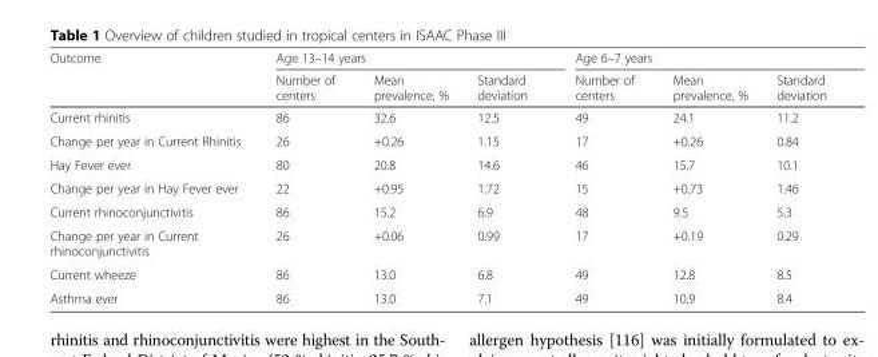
<table><thead><tr><td rowspan="2">Outcome</td><td colspan="3">Age 13–14 years</td><td colspan="3">Age 6–7 years</td></tr><tr><td>Number of centers</td><td>Mean prevalence, %</td><td>Standard deviation</td><td>Number of centers</td><td>Mean prevalence, %</td><td>Standard deviation</td></tr></thead><tbody><tr><td>Current rhinitis</td><td>86</td><td>32.6</td><td>12.5</td><td>49</td><td>24.1</td><td>11.2</td></tr><tr><td>Change per year in Current Rhinitis</td><td>26</td><td>+0.26</td><td>1.15</td><td>17</td><td>+0.26</td><td>0.84</td></tr><tr><td>Hay Fever ever</td><td>80</td><td>20.8</td><td>14.6</td><td>46</td><td>15.7</td><td>10.1</td></tr><tr><td>Change per year in Hay Fever ever</td><td>22</td><td>+0.95</td><td>1.72</td><td>15</td><td>+0.73</td><td>1.46</td></tr><tr><td>Current rhinoconjunctivitis</td><td>86</td><td>15.2</td><td>6.9</td><td>48</td><td>9.5</td><td>5.3</td></tr><tr><td>Change per year in Current rhinoconjunctivitis</td><td>26</td><td>+0.06</td><td>0.99</td><td>17</td><td>+0.19</td><td>0.29</td></tr><tr><td>Current wheeze</td><td>86</td><td>13.0</td><td>6.8</td><td>49</td><td>12.8</td><td>8.5</td></tr><tr><td>Asthma ever</td><td>86</td><td>13.0</td><td>7.1</td><td>49</td><td>10.9</td><td>8.4</td></tr></tbody></table>